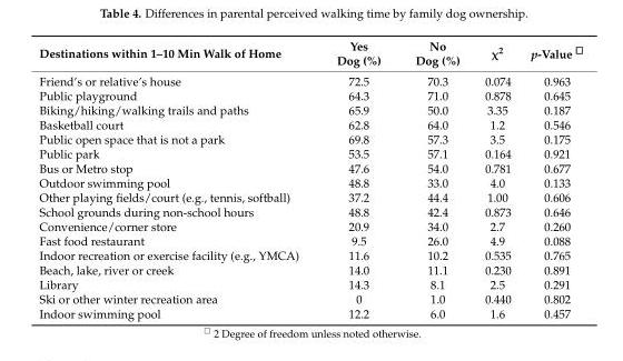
<table><thead><tr><td>Destinations within 1–10 Min Walk of Home</td><td>Yes Dog (%)</td><td>No Dog (%)</td><td>χ<sup>2</sup></td><td>p-Value □□□</td></tr></thead><tbody><tr><td>Friend’s or relative’s house</td><td>72.5</td><td>70.3</td><td>0.074</td><td>0.963</td></tr><tr><td>Public playground</td><td>64.3</td><td>71.0</td><td>0.878</td><td>0.645</td></tr><tr><td>Biking/hiking/walking trails and paths</td><td>65.9</td><td>50.0</td><td>3.35</td><td>0.187</td></tr><tr><td>Basketball court</td><td>62.8</td><td>64.0</td><td>1.2</td><td>0.546</td></tr><tr><td>Public open space that is not a park</td><td>69.8</td><td>57.3</td><td>3.5</td><td>0.175</td></tr><tr><td>Public park</td><td>53.5</td><td>57.1</td><td>0.164</td><td>0.921</td></tr><tr><td>Bus or Metro stop</td><td>47.6</td><td>54.0</td><td>0.781</td><td>0.677</td></tr><tr><td>Outdoor swimming pool</td><td>48.8</td><td>33.0</td><td>4.0</td><td>0.133</td></tr><tr><td>Other playing fields/court (e.g., tennis, softball)</td><td>37.2</td><td>44.4</td><td>1.00</td><td>0.606</td></tr><tr><td>School grounds during non-school hours</td><td>48.8</td><td>42.4</td><td>0.873</td><td>0.646</td></tr><tr><td>Convenience/corner store</td><td>20.9</td><td>34.0</td><td>2.7</td><td>0.260</td></tr><tr><td>Fast food restaurant</td><td>9.5</td><td>26.0</td><td>4.9</td><td>0.088</td></tr><tr><td>Indoor recreation or exercise facility (e.g., YMCA)</td><td>11.6</td><td>10.2</td><td>0.535</td><td>0.765</td></tr><tr><td>Beach, lake, river or creek</td><td>14.0</td><td>11.1</td><td>0.230</td><td>0.891</td></tr><tr><td>Library</td><td>14.3</td><td>8.1</td><td>2.5</td><td>0.291</td></tr><tr><td>Ski or other winter recreation area</td><td>0</td><td>1.0</td><td>0.440</td><td>0.802</td></tr><tr><td>Indoor swimming pool</td><td>12.2</td><td>6.0</td><td>1.6</td><td>0.457</td></tr></tbody></table>